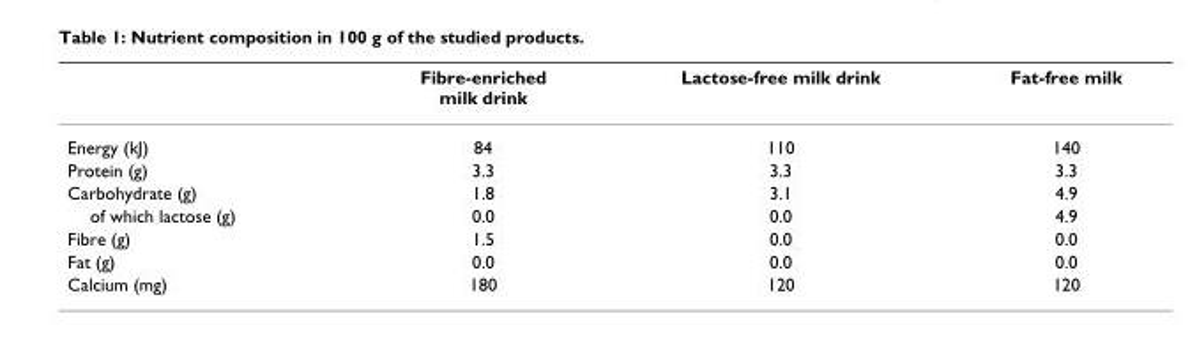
<table><thead><tr><td></td><td>Fibre-enriched milk drink</td><td>Lactose-free milk drink</td><td>Fat-free milk</td></tr></thead><tbody><tr><td>Energy (kJ)</td><td>84</td><td>110</td><td>140</td></tr><tr><td>Protein (g)</td><td>3.3</td><td>3.3</td><td>3.3</td></tr><tr><td>Carbohydrate (g)</td><td>1.8</td><td>3.1</td><td>4.9</td></tr><tr><td>of which lactose (g)</td><td>0.0</td><td>0.0</td><td>4.9</td></tr><tr><td>Fibre (g)</td><td>1.5</td><td>0.0</td><td>0.0</td></tr><tr><td>Fat (g)</td><td>0.0</td><td>0.0</td><td>0.0</td></tr><tr><td>Calcium (mg)</td><td>180</td><td>120</td><td>120</td></tr></tbody></table>